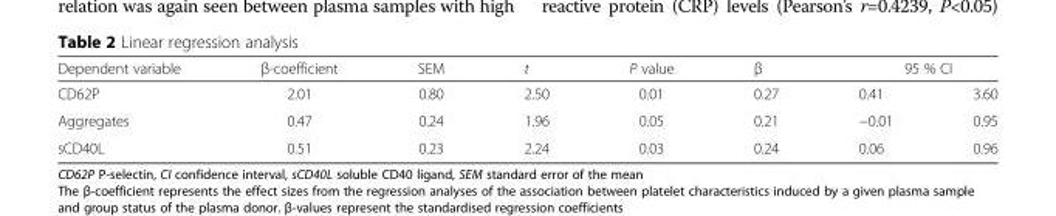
<table><thead><tr><td rowspan="2">Dependent variable CD62P</td><td rowspan="2">β-coefficient 2.01</td><td rowspan="2">SEM 0.80</td><td rowspan="2">t 2.50</td><td rowspan="2">P value 0.01</td><td rowspan="2">β 0.27</td><td colspan="2">95 % CI</td></tr><tr><td>0.41</td><td>3.60</td></tr></thead><tbody><tr><td>Aggregates</td><td>0.47</td><td>0.24</td><td>1.96</td><td>0.05</td><td>0.21</td><td>−0.01</td><td>0.95</td></tr><tr><td>sCD40L</td><td>0.51</td><td>0.23</td><td>2.24</td><td>0.03</td><td>0.24</td><td>0.06</td><td>0.96</td></tr></tbody></table>